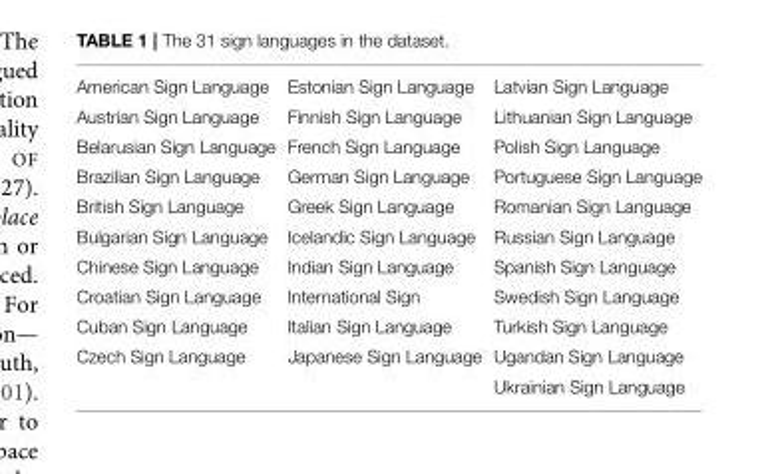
<table><tbody><tr><td>American Sign Language</td><td>Estonian Sign Language</td><td>Latvian Sign Language</td></tr><tr><td>Austrian Sign Language</td><td>Finnish Sign Language</td><td>Lithuanian Sign Language</td></tr><tr><td>Belarusian Sign Language</td><td>French Sign Language</td><td>Polish Sign Language</td></tr><tr><td>Brazilian Sign Language</td><td>German Sign Language</td><td>Portuguese Sign Language</td></tr><tr><td>British Sign Language</td><td>Greek Sign Language</td><td>Romanian Sign Language</td></tr><tr><td>Bulgarian Sign Language</td><td>Icelandic Sign Language</td><td>Russian Sign Language</td></tr><tr><td>Chinese Sign Language</td><td>Indian Sign Language</td><td>Spanish Sign Language</td></tr><tr><td>Croatian Sign Language</td><td>International Sign</td><td>Swedish Sign Language</td></tr><tr><td>Cuban Sign Language</td><td>Italian Sign Language</td><td>Turkish Sign Language</td></tr><tr><td rowspan="2">Czech Sign Language</td><td>Japanese Sign Language</td><td>Ugandan Sign Language</td></tr><tr><td></td><td>Ukrainian Sign Language</td></tr></tbody></table>